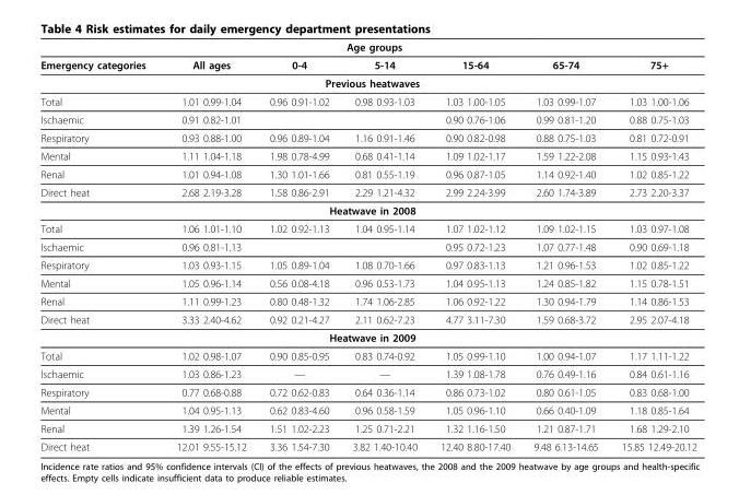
<table><thead><tr><td colspan="7">Age groups</td></tr><tr><td>Emergency categories</td><td>All ages</td><td>0-4</td><td>5-14</td><td>15-64</td><td>65-74</td><td>75+</td></tr></thead><tbody><tr><td colspan="7">Previous heatwaves</td></tr><tr><td>Total</td><td>1.01 0.99-1.04</td><td>0.96 0.91-1.02</td><td>0.98 0.93-1.03</td><td>1.03 1.00-1.05</td><td>1.03 0.99-1.07</td><td>1.03 1.00-1.06</td></tr><tr><td>Ischaemic</td><td>0.91 0.82-1.01</td><td></td><td></td><td>0.90 0.76-1.06</td><td>0.99 0.81-1.20</td><td>0.88 0.75-1.03</td></tr><tr><td>Respiratory</td><td>0.93 0.88-1.00</td><td>0.96 0.89-1.04</td><td>1.16 0.91-1.46</td><td>0.90 0.82-0.98</td><td>0.88 0.75-1.03</td><td>0.81 0.72-0.91</td></tr><tr><td>Mental</td><td>1.11 1.04-1.18</td><td>1.98 0.78-4.99</td><td>0.68 0.41-1.14</td><td>1.09 1.02-1.17</td><td>1.59 1.22-2.08</td><td>1.15 0.93-1.43</td></tr><tr><td>Renal</td><td>1.01 0.94-1.08</td><td>1.30 1.01-1.66</td><td>0.81 0.55-1.19</td><td>0.96 0.87-1.05</td><td>1.14 0.92-1.40</td><td>1.02 0.85-1.22</td></tr><tr><td>Direct heat</td><td>2.68 2.19-3.28</td><td>1.58 0.86-2.91</td><td>2.29 1.21-4.32</td><td>2.99 2.24-3.99</td><td>2.60 1.74-3.89</td><td>2.73 2.20-3.37</td></tr><tr><td colspan="7">Heatwave in 2008</td></tr><tr><td>Total</td><td>1.06 1.01-1.10</td><td>1.02 0.92-1.13</td><td>1.04 0.95-1.14</td><td>1.07 1.02-1.12</td><td>1.09 1.02-1.15</td><td>1.03 0.97-1.08</td></tr><tr><td>Ischaemic</td><td>0.96 0.81-1.13</td><td></td><td></td><td>0.95 0.72-1.23</td><td>1.07 0.77-1.48</td><td>0.90 0.69-1.18</td></tr><tr><td>Respiratory</td><td>1.03 0.93-1.15</td><td>1.05 0.89-1.04</td><td>1.08 0.70-1.66</td><td>0.97 0.83-1.13</td><td>1.21 0.96-1.53</td><td>1.02 0.85-1.22</td></tr><tr><td>Mental</td><td>1.05 0.96-1.14</td><td>0.56 0.08-4.18</td><td>0.96 0.53-1.73</td><td>1.04 0.95-1.13</td><td>1.24 0.85-1.82</td><td>1.15 0.78-1.51</td></tr><tr><td>Renal</td><td>1.11 0.99-1.23</td><td>0.80 0.48-1.32</td><td>1.74 1.06-2.85</td><td>1.06 0.92-1.22</td><td>1.30 0.94-1.79</td><td>1.14 0.86-1.53</td></tr><tr><td>Direct heat</td><td>3.33 2.40-4.62</td><td>0.92 0.21-4.27</td><td>2.11 0.62-7.23</td><td>4.77 3.11-7.30</td><td>1.59 0.68-3.72</td><td>2.95 2.07-4.18</td></tr><tr><td colspan="7">Heatwave in 2009</td></tr><tr><td>Total</td><td>1.02 0.98-1.07</td><td>0.90 0.85-0.95</td><td>0.83 0.74-0.92</td><td>1.05 0.99-1.10</td><td>1.00 0.94-1.07</td><td>1.17 1.11-1.22</td></tr><tr><td>Ischaemic</td><td>1.03 0.86-1.23</td><td>—</td><td>—</td><td>1.39 1.08-1.78</td><td>0.76 0.49-1.16</td><td>0.84 0.61-1.16</td></tr><tr><td>Respiratory</td><td>0.77 0.68-0.88</td><td>0.72 0.62-0.83</td><td>0.64 0.36-1.14</td><td>0.86 0.73-1.02</td><td>0.80 0.61-1.05</td><td>0.83 0.68-1.00</td></tr><tr><td>Mental</td><td>1.04 0.95-1.13</td><td>0.62 0.83-4.60</td><td>0.96 0.58-1.59</td><td>1.05 0.96-1.10</td><td>0.66 0.40-1.09</td><td>1.18 0.85-1.64</td></tr><tr><td>Renal</td><td>1.39 1.26-1.54</td><td>1.51 1.02-2.23</td><td>1.25 0.71-2.21</td><td>1.32 1.16-1.50</td><td>1.21 0.87-1.71</td><td>1.68 1.29-2.10</td></tr><tr><td>Direct heat</td><td>12.01 9.55-15.12</td><td>3.36 1.54-7.30</td><td>3.82 1.40-10.40</td><td>12.40 8.80-17.40</td><td>9.48 6.13-14.65</td><td>15.85 12.49-20.12</td></tr></tbody></table>